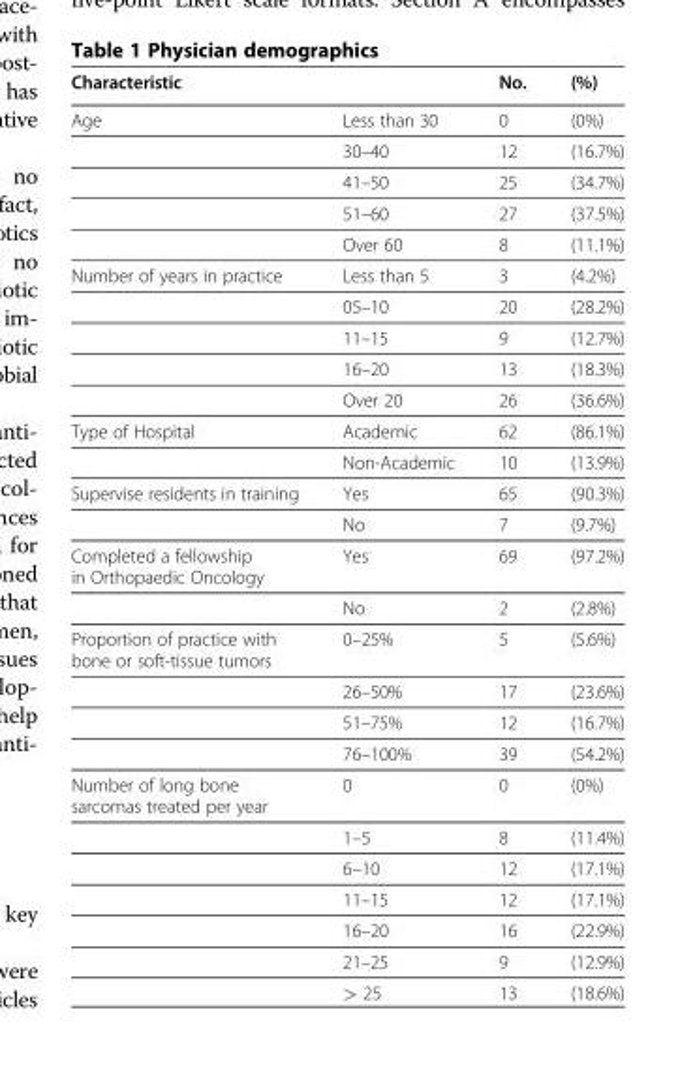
<table><thead><tr><td>Characteristic</td><td></td><td>No.</td><td>(%)</td></tr></thead><tbody><tr><td rowspan="5">Age</td><td>Less than 30</td><td>0</td><td>(0%)</td></tr><tr><td>30–40</td><td>12</td><td>(16.7%)</td></tr><tr><td>41–50</td><td>25</td><td>(34.7%)</td></tr><tr><td>51–60</td><td>27</td><td>(37.5%)</td></tr><tr><td>Over 60</td><td>8</td><td>(11.1%)</td></tr><tr><td rowspan="5">Number of years in practice</td><td>Less than 5</td><td>3</td><td>(4.2%)</td></tr><tr><td>05–10</td><td>20</td><td>(28.2%)</td></tr><tr><td>11–15</td><td>9</td><td>(12.7%)</td></tr><tr><td>16–20</td><td>13</td><td>(18.3%)</td></tr><tr><td>Over 20</td><td>26</td><td>(36.6%)</td></tr><tr><td rowspan="2">Type of Hospital</td><td>Academic</td><td>62</td><td>(86.1%)</td></tr><tr><td>Non-Academic</td><td>10</td><td>(13.9%)</td></tr><tr><td rowspan="2">Supervise residents in training</td><td>Yes</td><td>65</td><td>(90.3%)</td></tr><tr><td>No</td><td>7</td><td>(9.7%)</td></tr><tr><td rowspan="2">Completed a fellowship in Orthopaedic Oncology</td><td>Yes</td><td>69</td><td>(97.2%)</td></tr><tr><td>No</td><td>2</td><td>(2.8%)</td></tr><tr><td rowspan="4">Proportion of practice with bone or soft-tissue tumors</td><td>0–25%</td><td>5</td><td>(5.6%)</td></tr><tr><td>26–50%</td><td>17</td><td>(23.6%)</td></tr><tr><td>51–75%</td><td>12</td><td>(16.7%)</td></tr><tr><td>76–100%</td><td>39</td><td>(54.2%)</td></tr><tr><td rowspan="7">Number of long bone sarcomas treated per year</td><td>0</td><td>0</td><td>(0%)</td></tr><tr><td>1–5</td><td>8</td><td>(11.4%)</td></tr><tr><td>6–10</td><td>12</td><td>(17.1%)</td></tr><tr><td>11–15</td><td>12</td><td>(17.1%)</td></tr><tr><td>16–20</td><td>16</td><td>(22.9%)</td></tr><tr><td>21–25</td><td>9</td><td>(12.9%)</td></tr><tr><td>&gt; 25</td><td>13</td><td>(18.6%)</td></tr></tbody></table>